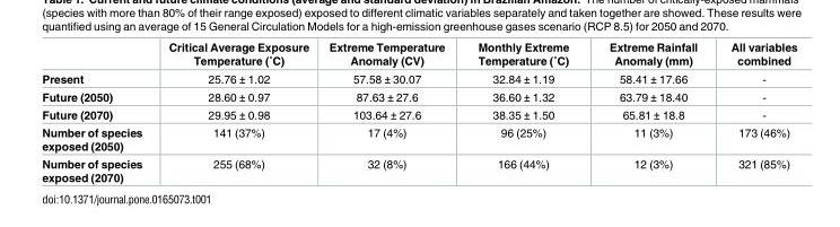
<table><thead><tr><td></td><td>Critical Average Exposure Temperature (˚C)</td><td>Extreme Temperature Anomaly (CV)</td><td>Monthly Extreme Temperature (˚C)</td><td>Extreme Rainfall Anomaly (mm)</td><td>All variables combined</td></tr></thead><tbody><tr><td>Present</td><td>25.76 ± 1.02</td><td>57.58 ± 30.07</td><td>32.84 ± 1.19</td><td>58.41 ± 17.66</td><td>-</td></tr><tr><td>Future (2050)</td><td>28.60 ± 0.97</td><td>87.63 ± 27.6</td><td>36.60 ± 1.32</td><td>63.79 ± 18.40</td><td>-</td></tr><tr><td>Future (2070)</td><td>29.95 ± 0.98</td><td>103.64 ± 27.6</td><td>38.35 ± 1.50</td><td>65.81 ± 18.8</td><td>-</td></tr><tr><td>Number of species exposed (2050)</td><td>141 (37%)</td><td>17 (4%)</td><td>96 (25%)</td><td>11 (3%)</td><td>173 (46%)</td></tr><tr><td>Number of species exposed (2070)</td><td>255 (68%)</td><td>32 (8%)</td><td>166 (44%)</td><td>12 (3%)</td><td>321 (85%)</td></tr></tbody></table>